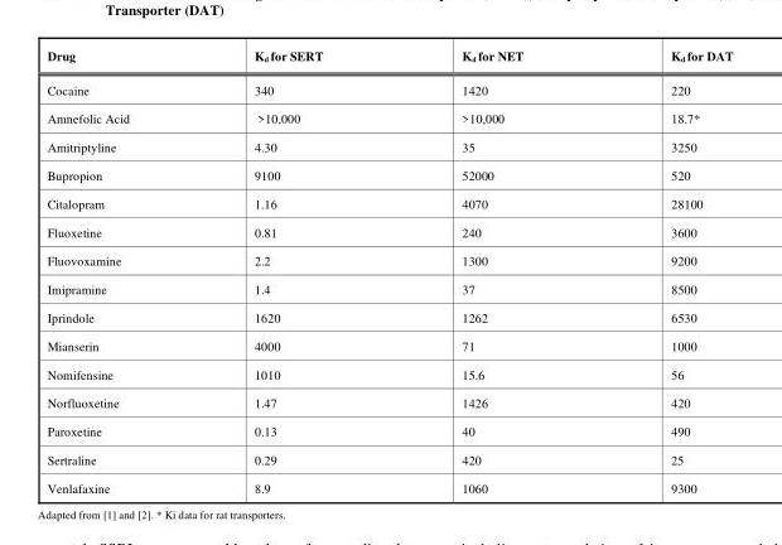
<table><thead><tr><td>Drug</td><td>K<sub>d</sub> for SERT</td><td>K<sub>d</sub> for NET</td><td>K<sub>d</sub> for DAT</td></tr></thead><tbody><tr><td>Cocaine</td><td>340</td><td>1420</td><td>220</td></tr><tr><td>Amnefolic Acid</td><td>&gt;10,000</td><td>&gt;10,000</td><td>18.7*</td></tr><tr><td>Amitriptyline</td><td>4.30</td><td>35</td><td>3250</td></tr><tr><td>Bupropion</td><td>9100</td><td>52000</td><td>520</td></tr><tr><td>Citalopram</td><td>1.16</td><td>4070</td><td>28100</td></tr><tr><td>Fluoxetine</td><td>0.81</td><td>240</td><td>3600</td></tr><tr><td>Fluovoxamine</td><td>2.2</td><td>1300</td><td>9200</td></tr><tr><td>Imipramine</td><td>1.4</td><td>37</td><td>8500</td></tr><tr><td>Iprindole</td><td>1620</td><td>1262</td><td>6530</td></tr><tr><td>Mianserin</td><td>4000</td><td>71</td><td>1000</td></tr><tr><td>Nomifensine</td><td>1010</td><td>15.6</td><td>56</td></tr><tr><td>Norfluoxetine</td><td>1.47</td><td>1426</td><td>420</td></tr><tr><td>Paroxetine</td><td>0.13</td><td>40</td><td>490</td></tr><tr><td>Sertraline</td><td>0.29</td><td>420</td><td>25</td></tr><tr><td>Venlafaxine</td><td>8.9</td><td>1060</td><td>9300</td></tr></tbody></table>